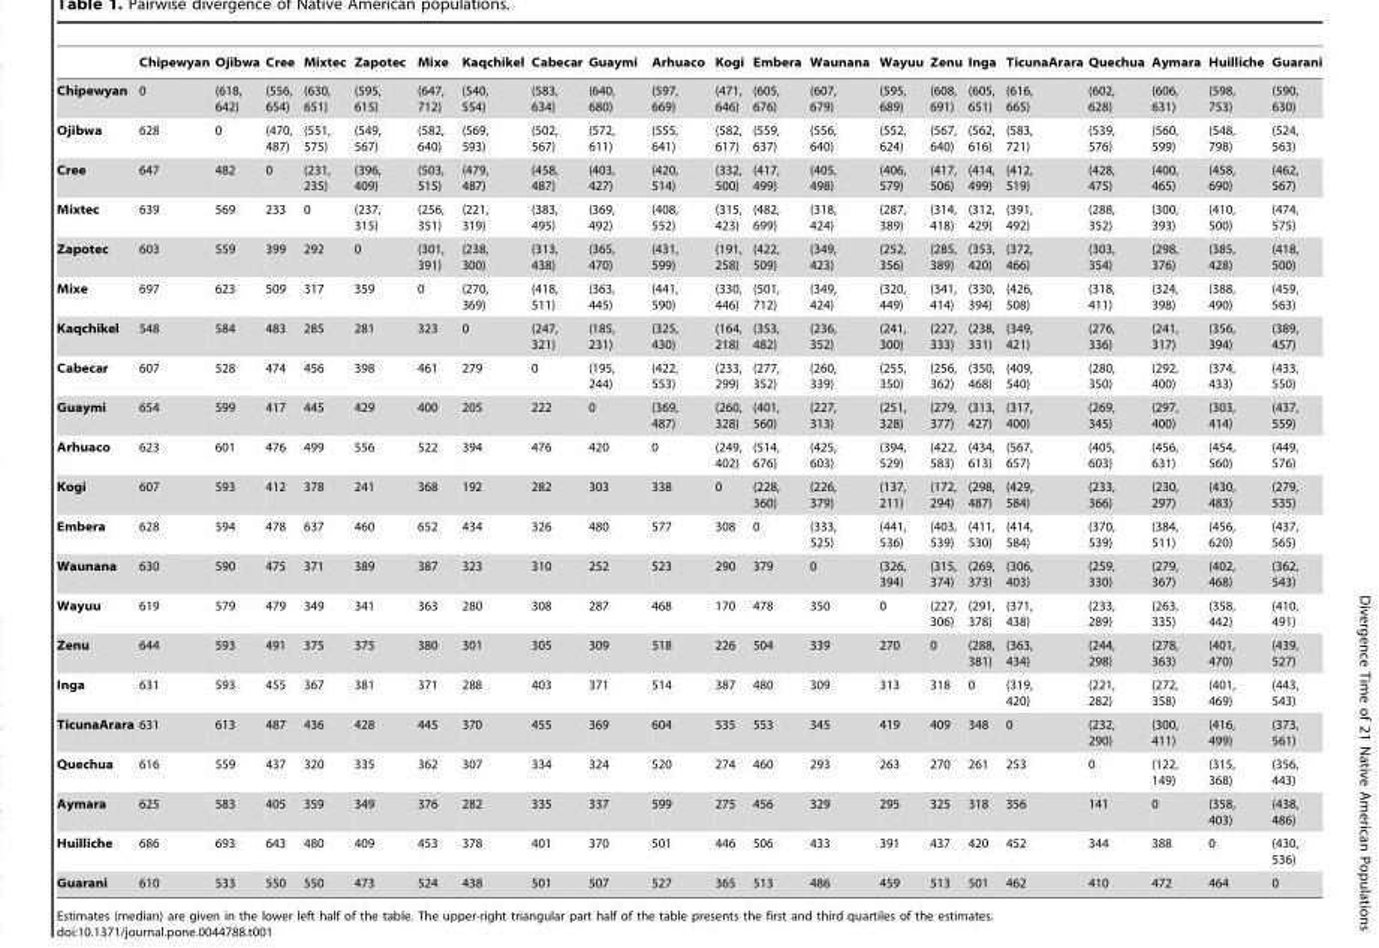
<table><thead><tr><td></td><td>Chipewyan</td><td>Ojibwa</td><td>Cree</td><td>Mixtec</td><td>Zapotec</td><td>Mixe</td><td>Kaqchikel</td><td>Cabecar</td><td>Guaymi</td><td>Arhuaco</td><td>Kogi</td><td>Embera</td><td>Waunana</td><td>Wayuu</td><td>Zenu</td><td>Inga</td><td>TicunaArara</td><td>Quechua</td><td>Aymara</td><td>Huilliche</td><td>Guarani</td></tr></thead><tbody><tr><td>Chipewyan</td><td>0</td><td>(618, 642)</td><td>(556, 654)</td><td>(630, 651)</td><td>(595, 615)</td><td>(647, 712)</td><td>(540, 554)</td><td>(583, 634)</td><td>(640, 680)</td><td>(597, 669)</td><td>(471, 646)</td><td>(605, 676)</td><td>(607, 679)</td><td>(595, 689)</td><td>(608, 691)</td><td>(605, 651)</td><td>(616, 665)</td><td>(602, 628)</td><td>(606, 631)</td><td>(598, 753)</td><td>(590, 630)</td></tr><tr><td>Ojibwa</td><td>628</td><td>0</td><td>(470, 487)</td><td>(551, 575)</td><td>(549, 567)</td><td>(582, 640)</td><td>(569, 593)</td><td>(502, 567)</td><td>(572, 611)</td><td>(555, 641)</td><td>(582, 617)</td><td>(559, 637)</td><td>(556, 640)</td><td>(552, 624)</td><td>(567, 640)</td><td>(562, 616)</td><td>(583, 721)</td><td>(539, 576)</td><td>(560, 599)</td><td>(548, 798)</td><td>(524, 563)</td></tr><tr><td>Cree</td><td>647</td><td>482</td><td>0</td><td>(231, 235)</td><td>(396, 409)</td><td>(503, 515)</td><td>(479, 487)</td><td>(458, 487)</td><td>(403, 427)</td><td>(420, 514)</td><td>(332, 500)</td><td>(417, 499)</td><td>(405, 498)</td><td>(406, 579)</td><td>(417, 506)</td><td>(414, 499)</td><td>(412, 519)</td><td>(428, 475)</td><td>(400, 465)</td><td>(458, 690)</td><td>(462, 567)</td></tr><tr><td>Mixtec</td><td>639</td><td>569</td><td>233</td><td>0</td><td>(237, 315)</td><td>(256, 351)</td><td>(221, 319)</td><td>(383, 495)</td><td>(369, 492)</td><td>(408, 552)</td><td>(315, 423)</td><td>(482, 699)</td><td>(318, 424)</td><td>(287, 389)</td><td>(314, 418)</td><td>(312, 429)</td><td>(391, 492)</td><td>(288, 352)</td><td>(300, 393)</td><td>(410, 500)</td><td>(474, 575)</td></tr><tr><td>Zapotec</td><td>603</td><td>559</td><td>399</td><td>292</td><td>0</td><td>(301, 391)</td><td>(238, 300)</td><td>(313, 438)</td><td>(365, 470)</td><td>(431, 599)</td><td>(191, 258)</td><td>(422, 509)</td><td>(349, 423)</td><td>(252, 356)</td><td>(285, 389)</td><td>(353, 420)</td><td>(372, 466)</td><td>(303, 354)</td><td>(298, 376)</td><td>(385, 428)</td><td>(418, 500)</td></tr><tr><td>Mixe</td><td>697</td><td>623</td><td>509</td><td>317</td><td>359</td><td>0</td><td>(270, 369)</td><td>(418, 511)</td><td>(363, 445)</td><td>(441, 590)</td><td>(330, 446)</td><td>(501, 712)</td><td>(349, 424)</td><td>(320, 449)</td><td>(341, 414)</td><td>(330, 394)</td><td>(426, 508)</td><td>(318, 411)</td><td>(324, 398)</td><td>(388, 490)</td><td>(459, 563)</td></tr><tr><td>Kaqchikel</td><td>548</td><td>584</td><td>483</td><td>285</td><td>281</td><td>323</td><td>0</td><td>(247, 321)</td><td>(185, 231)</td><td>(325, 430)</td><td>(164, 218)</td><td>(353, 482)</td><td>(236, 352)</td><td>(241, 300)</td><td>(227, 333)</td><td>(238, 331)</td><td>(349, 421)</td><td>(276, 336)</td><td>(241, 317)</td><td>(356, 394)</td><td>(389, 457)</td></tr><tr><td>Cabecar</td><td>607</td><td>528</td><td>474</td><td>456</td><td>398</td><td>461</td><td>279</td><td>0</td><td>(195, 244)</td><td>(422, 553)</td><td>(233, 299)</td><td>(277, 352)</td><td>(260, 339)</td><td>(255, 350)</td><td>(256, 362)</td><td>(350, 468)</td><td>(409, 540)</td><td>(280, 350)</td><td>(292, 400)</td><td>(374, 433)</td><td>(433, 550)</td></tr><tr><td>Guaymi</td><td>654</td><td>599</td><td>417</td><td>445</td><td>429</td><td>400</td><td>205</td><td>222</td><td>0</td><td>(369, 487)</td><td>(260, 328)</td><td>(401, 560)</td><td>(227, 313)</td><td>(251, 328)</td><td>(279, 377)</td><td>(313, 427)</td><td>(317, 400)</td><td>(269, 345)</td><td>(297, 400)</td><td>(303, 414)</td><td>(437, 559)</td></tr><tr><td>Arhuaco</td><td>623</td><td>601</td><td>476</td><td>499</td><td>556</td><td>522</td><td>394</td><td>476</td><td>420</td><td>0</td><td>(249, 402)</td><td>(514, 676)</td><td>(425, 603)</td><td>(394, 529)</td><td>(422, 583)</td><td>(434, 613)</td><td>(567, 657)</td><td>(405, 603)</td><td>(456, 631)</td><td>(454, 560)</td><td>(449, 576)</td></tr><tr><td>Kogi</td><td>607</td><td>593</td><td>412</td><td>378</td><td>241</td><td>368</td><td>192</td><td>282</td><td>303</td><td>338</td><td>0</td><td>(228, 360)</td><td>(226, 379)</td><td>(137, 211)</td><td>(172, 294)</td><td>(298, 487)</td><td>(429, 584)</td><td>(233, 366)</td><td>(230, 297)</td><td>(430, 483)</td><td>(279, 535)</td></tr><tr><td>Embera</td><td>628</td><td>594</td><td>478</td><td>637</td><td>460</td><td>652</td><td>434</td><td>326</td><td>480</td><td>577</td><td>308</td><td>0</td><td>(333, 525)</td><td>(441, 536)</td><td>(403, 539)</td><td>(411, 530)</td><td>(414, 584)</td><td>(370, 539)</td><td>(384, 511)</td><td>(456, 620)</td><td>(437, 565)</td></tr><tr><td>Waunana</td><td>630</td><td>590</td><td>475</td><td>371</td><td>389</td><td>387</td><td>323</td><td>310</td><td>252</td><td>523</td><td>290</td><td>379</td><td>0</td><td>(326, 394)</td><td>(315, 374)</td><td>(269, 373)</td><td>(306, 403)</td><td>(259, 330)</td><td>(279, 367)</td><td>(402, 468)</td><td>(362, 543)</td></tr><tr><td>Wayuu</td><td>619</td><td>579</td><td>479</td><td>349</td><td>341</td><td>363</td><td>280</td><td>308</td><td>287</td><td>468</td><td>170</td><td>478</td><td>350</td><td>0</td><td>(227, 306)</td><td>(291, 378)</td><td>(371, 438)</td><td>(233, 289)</td><td>(263, 335)</td><td>(358, 442)</td><td>(410, 491)</td></tr><tr><td>Zenu</td><td>644</td><td>593</td><td>491</td><td>375</td><td>375</td><td>380</td><td>301</td><td>305</td><td>309</td><td>518</td><td>226</td><td>504</td><td>339</td><td>270</td><td>0</td><td>(288, 381)</td><td>(363, 434)</td><td>(244, 298)</td><td>(278, 363)</td><td>(401, 470)</td><td>(439, 527)</td></tr><tr><td>Inga</td><td>631</td><td>593</td><td>455</td><td>367</td><td>381</td><td>371</td><td>288</td><td>403</td><td>371</td><td>514</td><td>387</td><td>480</td><td>309</td><td>313</td><td>318</td><td>0</td><td>(319, 420)</td><td>(221, 282)</td><td>(272, 358)</td><td>(401, 469)</td><td>(443, 543)</td></tr><tr><td>TicunaArara</td><td>631</td><td>613</td><td>487</td><td>436</td><td>428</td><td>445</td><td>370</td><td>455</td><td>369</td><td>604</td><td>535</td><td>553</td><td>345</td><td>419</td><td>409</td><td>348</td><td>0</td><td>(232, 290)</td><td>(300, 411)</td><td>(416, 499)</td><td>(373, 561)</td></tr><tr><td>Quechua</td><td>616</td><td>559</td><td>437</td><td>320</td><td>335</td><td>362</td><td>307</td><td>334</td><td>324</td><td>520</td><td>274</td><td>460</td><td>293</td><td>263</td><td>270</td><td>261</td><td>253</td><td>0</td><td>(122, 149)</td><td>(315, 368)</td><td>(356, 443)</td></tr><tr><td>Aymara</td><td>625</td><td>583</td><td>405</td><td>359</td><td>349</td><td>376</td><td>282</td><td>335</td><td>337</td><td>599</td><td>275</td><td>456</td><td>329</td><td>295</td><td>325</td><td>318</td><td>356</td><td>141</td><td>0</td><td>(358, 403)</td><td>(438, 486)</td></tr><tr><td>Huilliche</td><td>686</td><td>693</td><td>643</td><td>480</td><td>409</td><td>453</td><td>378</td><td>401</td><td>370</td><td>501</td><td>446</td><td>506</td><td>433</td><td>391</td><td>437</td><td>420</td><td>452</td><td>344</td><td>388</td><td>0</td><td>(430, 536)</td></tr><tr><td>Guarani</td><td>610</td><td>533</td><td>550</td><td>550</td><td>473</td><td>524</td><td>438</td><td>501</td><td>507</td><td>527</td><td>365</td><td>513</td><td>486</td><td>459</td><td>513</td><td>501</td><td>462</td><td>410</td><td>472</td><td>464</td><td>0</td></tr></tbody></table>